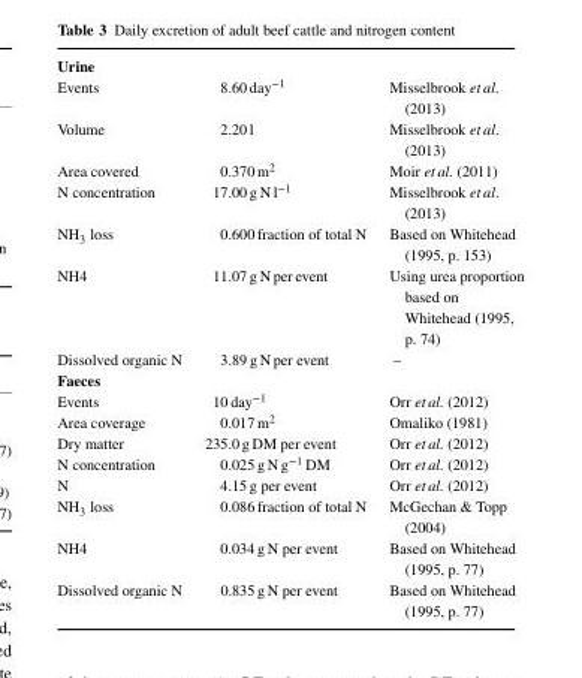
<table><tbody><tr><td colspan="3">Urine</td></tr><tr><td>Events</td><td>8.60 day<sup>−1</sup></td><td>Misselbrook et al. (2013)</td></tr><tr><td>Volume</td><td>2.20 l</td><td>Misselbrook et al. (2013)</td></tr><tr><td>Area covered</td><td>0.370 m<sup>2</sup></td><td>Moir et al. (2011)</td></tr><tr><td>N concentration</td><td>17.00 g N l<sup>−1</sup></td><td>Misselbrook et al. (2013)</td></tr><tr><td>NH<sub>3</sub> loss</td><td>0.600 fraction of total N</td><td>Based on Whitehead (1995, p. 153)</td></tr><tr><td>NH4</td><td>11.07 g N per event</td><td>Using urea proportion based on Whitehead (1995, p. 74)</td></tr><tr><td>Dissolved organic N</td><td>3.89 g N per event</td><td>–</td></tr><tr><td colspan="3">Faeces</td></tr><tr><td>Events</td><td>10 day<sup>−1</sup></td><td>Orr et al. (2012)</td></tr><tr><td>Area coverage</td><td>0.017 m<sup>2</sup></td><td>Omaliko (1981)</td></tr><tr><td>Dry matter</td><td>235.0 g DM per event</td><td>Orr et al. (2012)</td></tr><tr><td>N concentration</td><td>0.025 g N g<sup>−1</sup> DM</td><td>Orr et al. (2012)</td></tr><tr><td>N</td><td>4.15 g per event</td><td>Orr et al. (2012)</td></tr><tr><td>NH<sub>3</sub> loss</td><td>0.086 fraction of total N</td><td>McGechan &amp; Topp (2004)</td></tr><tr><td>NH4</td><td>0.034 g N per event</td><td>Based on Whitehead (1995, p. 77)</td></tr><tr><td>Dissolved organic N</td><td>0.835 g N per event</td><td>Based on Whitehead (1995, p. 77)</td></tr></tbody></table>